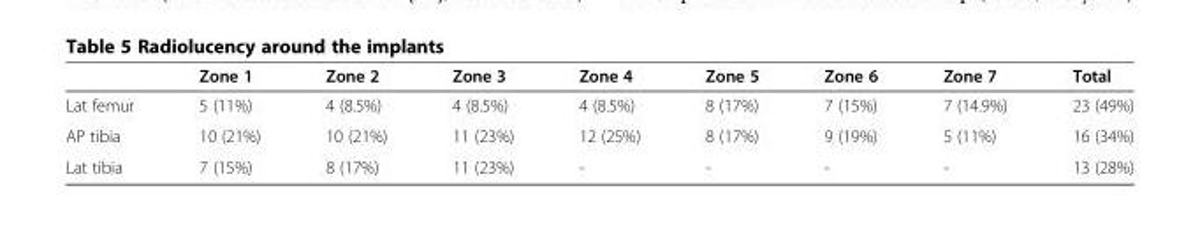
<table><thead><tr><td></td><td>Zone 1</td><td>Zone 2</td><td>Zone 3</td><td>Zone 4</td><td>Zone 5</td><td>Zone 6</td><td>Zone 7</td><td>Total</td></tr></thead><tbody><tr><td>Lat femur</td><td>5 (11%)</td><td>4 (8.5%)</td><td>4 (8.5%)</td><td>4 (8.5%)</td><td>8 (17%)</td><td>7 (15%)</td><td>7 (14.9%)</td><td>23 (49%)</td></tr><tr><td>AP tibia</td><td>10 (21%)</td><td>10 (21%)</td><td>11 (23%)</td><td>12 (25%)</td><td>8 (17%)</td><td>9 (19%)</td><td>5 (11%)</td><td>16 (34%)</td></tr><tr><td>Lat tibia</td><td>7 (15%)</td><td>8 (17%)</td><td>11 (23%)</td><td>-</td><td>-</td><td>-</td><td>-</td><td>13 (28%)</td></tr></tbody></table>